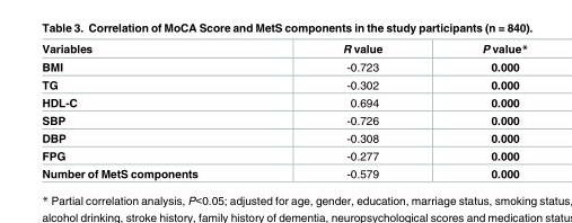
<table><thead><tr><td>Variables</td><td>R value</td><td>P value*</td></tr></thead><tbody><tr><td>BMI</td><td>-0.723</td><td>0.000</td></tr><tr><td>TG</td><td>-0.302</td><td>0.000</td></tr><tr><td>HDL-C</td><td>0.694</td><td>0.000</td></tr><tr><td>SBP</td><td>-0.726</td><td>0.000</td></tr><tr><td>DBP</td><td>-0.308</td><td>0.000</td></tr><tr><td>FPG</td><td>-0.277</td><td>0.000</td></tr><tr><td>Number of MetS components</td><td>-0.579</td><td>0.000</td></tr></tbody></table>